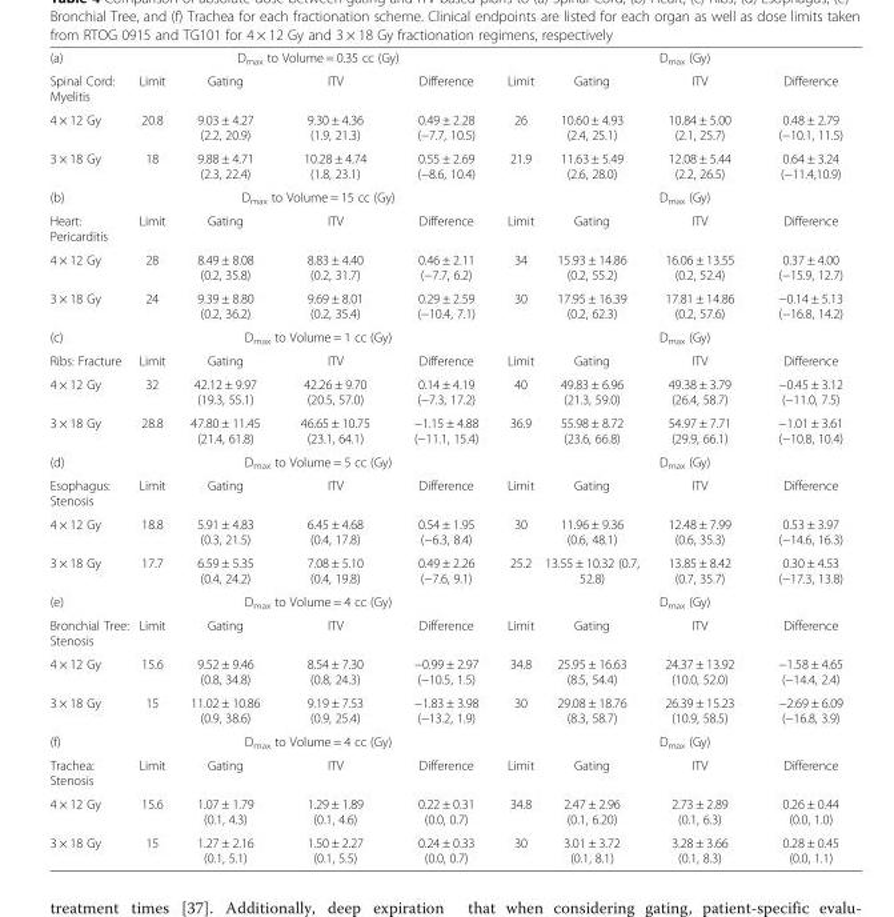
<table><tbody><tr><td>(a)</td><td colspan="4">D<sub>max</sub> to Volume = 0.35 cc (Gy)</td><td colspan="4">D<sub>max</sub> (Gy)</td></tr><tr><td>Spinal Cord: Myelitis</td><td>Limit</td><td>Gating</td><td>ITV</td><td>Difference</td><td>Limit</td><td>Gating</td><td>ITV</td><td>Difference</td></tr><tr><td>4 × 12 Gy</td><td>20.8</td><td>9.03 ± 4.27 (2.2, 20.9)</td><td>9.30 ± 4.36 (1.9, 21.3)</td><td>0.49 ± 2.28 (−7.7, 10.5)</td><td>26</td><td>10.60 ± 4.93 (2.4, 25.1)</td><td>10.84 ± 5.00 (2.1, 25.7)</td><td>0.48 ± 2.79 (−10.1, 11.5)</td></tr><tr><td>3 × 18 Gy</td><td>18</td><td>9.88 ± 4.71 (2.3, 22.4)</td><td>10.28 ± 4.74 (1.8, 23.1)</td><td>0.55 ± 2.69 (−8.6, 10.4)</td><td>21.9</td><td>11.63 ± 5.49 (2.6, 28.0)</td><td>12.08 ± 5.44 (2.2, 26.5)</td><td>0.64 ± 3.24 (−11.4,10.9)</td></tr><tr><td>(b)</td><td colspan="4">D<sub>max</sub> to Volume = 15 cc (Gy)</td><td colspan="4">D<sub>max</sub> (Gy)</td></tr><tr><td>Heart: Pericarditis</td><td>Limit</td><td>Gating</td><td>ITV</td><td>Difference</td><td>Limit</td><td>Gating</td><td>ITV</td><td>Difference</td></tr><tr><td>4 × 12 Gy</td><td>28</td><td>8.49 ± 8.08 (0.2, 35.8)</td><td>8.83 ± 4.40 (0.2, 31.7)</td><td>0.46 ± 2.11 (−7.7, 6.2)</td><td>34</td><td>15.93 ± 14.86 (0.2, 55.2)</td><td>16.06 ± 13.55 (0.2, 52.4)</td><td>0.37 ± 4.00 (−15.9, 12.7)</td></tr><tr><td>3 × 18 Gy</td><td>24</td><td>9.39 ± 8.80 (0.2, 36.2)</td><td>9.69 ± 8.01 (0.2, 35.4)</td><td>0.29 ± 2.59 (−10.4, 7.1)</td><td>30</td><td>17.95 ± 16.39 (0.2, 62.3)</td><td>17.81 ± 14.86 (0.2, 57.6)</td><td>−0.14 ± 5.13 (−16.8, 14.2)</td></tr><tr><td>(c)</td><td colspan="4">D<sub>max</sub> to Volume = 1 cc (Gy)</td><td colspan="4">D<sub>max</sub> (Gy)</td></tr><tr><td>Ribs: Fracture</td><td>Limit</td><td>Gating</td><td>ITV</td><td>Difference</td><td>Limit</td><td>Gating</td><td>ITV</td><td>Difference</td></tr><tr><td>4 × 12 Gy</td><td>32</td><td>42.12 ± 9.97 (19.3, 55.1)</td><td>42.26 ± 9.70 (20.5, 57.0)</td><td>0.14 ± 4.19 (−7.3, 17.2)</td><td>40</td><td>49.83 ± 6.96 (21.3, 59.0)</td><td>49.38 ± 3.79 (26.4, 58.7)</td><td>−0.45 ± 3.12 (−11.0, 7.5)</td></tr><tr><td>3 × 18 Gy</td><td>28.8</td><td>47.80 ± 11.45 (21.4, 61.8)</td><td>46.65 ± 10.75 (23.1, 64.1)</td><td>−1.15 ± 4.88 (−11.1, 15.4)</td><td>36.9</td><td>55.98 ± 8.72 (23.6, 66.8)</td><td>54.97 ± 7.71 (29.9, 66.1)</td><td>−1.01 ± 3.61 (−10.8, 10.4)</td></tr><tr><td>(d)</td><td colspan="4">D<sub>max</sub> to Volume = 5 cc (Gy)</td><td colspan="4">D<sub>max</sub> (Gy)</td></tr><tr><td>Esophagus: Stenosis</td><td>Limit</td><td>Gating</td><td>ITV</td><td>Difference</td><td>Limit</td><td>Gating</td><td>ITV</td><td>Difference</td></tr><tr><td>4 × 12 Gy</td><td>18.8</td><td>5.91 ± 4.83 (0.3, 21.5)</td><td>6.45 ± 4.68 (0.4, 17.8)</td><td>0.54 ± 1.95 (−6.3, 8.4)</td><td>30</td><td>11.96 ± 9.36 (0.6, 48.1)</td><td>12.48 ± 7.99 (0.6, 35.3)</td><td>0.53 ± 3.97 (−14.6, 16.3)</td></tr><tr><td>3 × 18 Gy</td><td>17.7</td><td>6.59 ± 5.35 (0.4, 24.2)</td><td>7.08 ± 5.10 (0.4, 19.8)</td><td>0.49 ± 2.26 (−7.6, 9.1)</td><td>25.2</td><td>13.55 ± 10.32 (0.7, 52.8)</td><td>13.85 ± 8.42 (0.7, 35.7)</td><td>0.30 ± 4.53 (−17.3, 13.8)</td></tr><tr><td>(e)</td><td colspan="4">D<sub>max</sub> to Volume = 4 cc (Gy)</td><td colspan="4">D<sub>max</sub> (Gy)</td></tr><tr><td>Bronchial Tree: Stenosis</td><td>Limit</td><td>Gating</td><td>ITV</td><td>Difference</td><td>Limit</td><td>Gating</td><td>ITV</td><td>Difference</td></tr><tr><td>4 × 12 Gy</td><td>15.6</td><td>9.52 ± 9.46 (0.8, 34.8)</td><td>8.54 ± 7.30 (0.8, 24.3)</td><td>−0.99 ± 2.97 (−10.5, 1.5)</td><td>34.8</td><td>25.95 ± 16.63 (8.5, 54.4)</td><td>24.37 ± 13.92 (10.0, 52.0)</td><td>−1.58 ± 4.65 (−14.4, 2.4)</td></tr><tr><td>3 × 18 Gy</td><td>15</td><td>11.02 ± 10.86 (0.9, 38.6)</td><td>9.19 ± 7.53 (0.9, 25.4)</td><td>−1.83 ± 3.98 (−13.2, 1.9)</td><td>30</td><td>29.08 ± 18.76 (8.3, 58.7)</td><td>26.39 ± 15.23 (10.9, 58.5)</td><td>−2.69 ± 6.09 (−16.8, 3.9)</td></tr><tr><td>(f)</td><td colspan="4">D<sub>max</sub> to Volume = 4 cc (Gy)</td><td colspan="4">D<sub>max</sub> (Gy)</td></tr><tr><td>Trachea: Stenosis</td><td>Limit</td><td>Gating</td><td>ITV</td><td>Difference</td><td>Limit</td><td>Gating</td><td>ITV</td><td>Difference</td></tr><tr><td>4 × 12 Gy</td><td>15.6</td><td>1.07 ± 1.79 (0.1, 4.3)</td><td>1.29 ± 1.89 (0.1, 4.6)</td><td>0.22 ± 0.31 (0.0, 0.7)</td><td>34.8</td><td>2.47 ± 2.96 (0.1, 6.20)</td><td>2.73 ± 2.89 (0.1, 6.3)</td><td>0.26 ± 0.44 (0.0, 1.0)</td></tr><tr><td>3 × 18 Gy</td><td>15</td><td>1.27 ± 2.16 (0.1, 5.1)</td><td>1.50 ± 2.27 (0.1, 5.5)</td><td>0.24 ± 0.33 (0.0, 0.7)</td><td>30</td><td>3.01 ± 3.72 (0.1, 8.1)</td><td>3.28 ± 3.66 (0.1, 8.3)</td><td>0.28 ± 0.45 (0.0, 1.1)</td></tr></tbody></table>